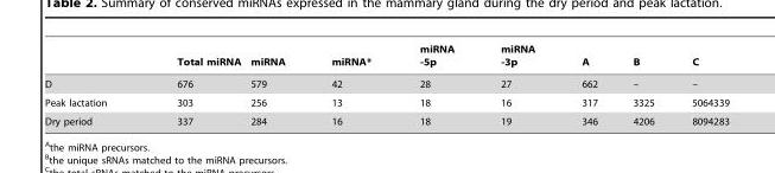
<table><thead><tr><td></td><td>Total miRNA</td><td>miRNA</td><td>miRNA*</td><td>miRNA -5p</td><td>miRNA -3p</td><td>A</td><td>B</td><td>C</td></tr></thead><tbody><tr><td>D</td><td>676</td><td>579</td><td>42</td><td>28</td><td>27</td><td>662</td><td>–</td><td>–</td></tr><tr><td>Peak lactation</td><td>303</td><td>256</td><td>13</td><td>18</td><td>16</td><td>317</td><td>3325</td><td>5064339</td></tr><tr><td>Dry period</td><td>337</td><td>284</td><td>16</td><td>18</td><td>19</td><td>346</td><td>4206</td><td>8094283</td></tr></tbody></table>